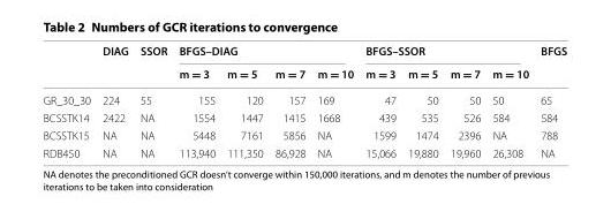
<table><thead><tr><td rowspan="2"></td><td rowspan="2">DIAG</td><td rowspan="2">SSOR</td><td colspan="4">BFGS–DIAG</td><td colspan="4">BFGS–SSOR</td><td rowspan="2">BFGS</td></tr><tr><td>m = 3</td><td>m = 5</td><td>m = 7</td><td>m = 10</td><td>m = 3</td><td>m = 5</td><td>m = 7</td><td>m = 10</td></tr></thead><tbody><tr><td>GR_30_30</td><td>224</td><td>55</td><td>155</td><td>120</td><td>157</td><td>169</td><td>47</td><td>50</td><td>50</td><td>50</td><td>65</td></tr><tr><td>BCSSTK14</td><td>2422</td><td>NA</td><td>1554</td><td>1447</td><td>1415</td><td>1668</td><td>439</td><td>535</td><td>526</td><td>584</td><td>584</td></tr><tr><td>BCSSTK15</td><td>NA</td><td>NA</td><td>5448</td><td>7161</td><td>5856</td><td>NA</td><td>1599</td><td>1474</td><td>2396</td><td>NA</td><td>788</td></tr><tr><td>RDB450</td><td>NA</td><td>NA</td><td>113,940</td><td>111,350</td><td>86,928</td><td>NA</td><td>15,066</td><td>19,880</td><td>19,960</td><td>26,308</td><td>NA</td></tr></tbody></table>